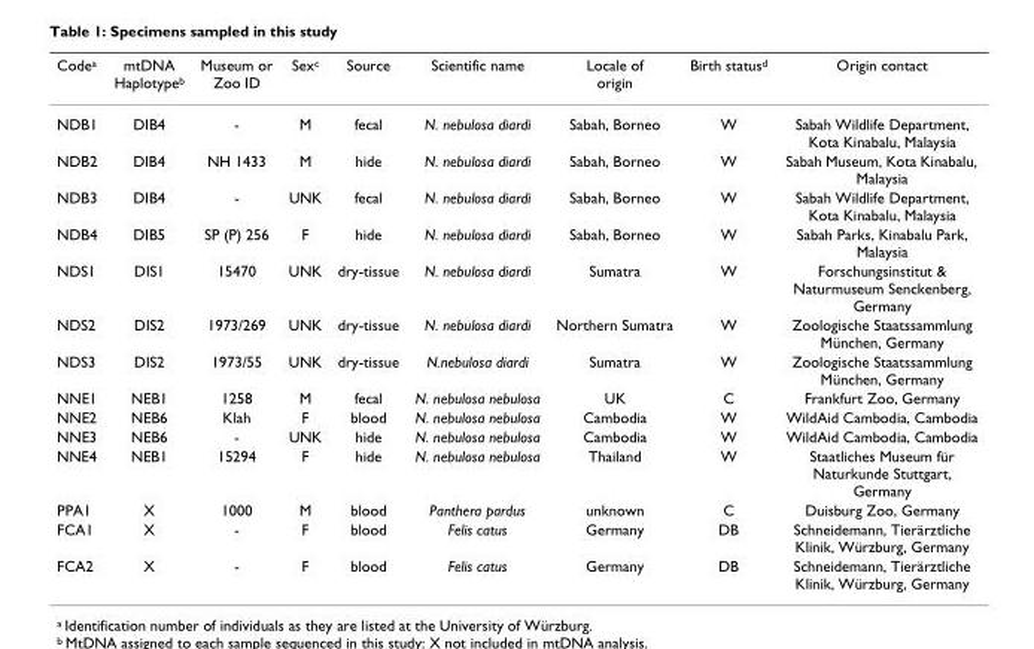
<table><thead><tr><td>Code<sup>a</sup></td><td>mtDNA Haplotype<sup>b</sup></td><td>Museum or Zoo ID</td><td>Sex<sup>c</sup></td><td>Source</td><td>Scientific name</td><td>Locale of origin</td><td>Birth status<sup>d</sup></td><td>Origin contact</td></tr></thead><tbody><tr><td>NDB1</td><td>DIB4</td><td>-</td><td>M</td><td>fecal</td><td>N. nebulosa diardi</td><td>Sabah, Borneo</td><td>W</td><td>Sabah Wildlife Department, Kota Kinabalu, Malaysia</td></tr><tr><td>NDB2</td><td>DIB4</td><td>NH 1433</td><td>M</td><td>hide</td><td>N. nebulosa diardi</td><td>Sabah, Borneo</td><td>W</td><td>Sabah Museum, Kota Kinabalu, Malaysia</td></tr><tr><td>NDB3</td><td>DIB4</td><td>-</td><td>UNK</td><td>fecal</td><td>N. nebulosa diardi</td><td>Sabah, Borneo</td><td>W</td><td>Sabah Wildlife Department, Kota Kinabalu, Malaysia</td></tr><tr><td>NDB4</td><td>DIB5</td><td>SP (P) 256</td><td>F</td><td>hide</td><td>N. nebulosa diardi</td><td>Sabah, Borneo</td><td>W</td><td>Sabah Parks, Kinabalu Park, Malaysia</td></tr><tr><td>NDS1</td><td>DIS1</td><td>15470</td><td>UNK</td><td>dry-tissue</td><td>N. nebulosa diardi</td><td>Sumatra</td><td>W</td><td>Forschungsinstitut &amp; Naturmuseum Senckenberg, Germany</td></tr><tr><td>NDS2</td><td>DIS2</td><td>1973/269</td><td>UNK</td><td>dry-tissue</td><td>N. nebulosa diardi</td><td>Northern Sumatra</td><td>W</td><td>Zoologische Staatssammlung München, Germany</td></tr><tr><td>NDS3</td><td>DIS2</td><td>1973/55</td><td>UNK</td><td>dry-tissue</td><td>N.nebulosa diardi</td><td>Sumatra</td><td>W</td><td>Zoologische Staatssammlung München, Germany</td></tr><tr><td>NNE1</td><td>NEB1</td><td>1258</td><td>M</td><td>fecal</td><td>N. nebulosa nebulosa</td><td>UK</td><td>C</td><td>Frankfurt Zoo, Germany</td></tr><tr><td>NNE2</td><td>NEB6</td><td>Klah</td><td>F</td><td>blood</td><td>N. nebulosa nebulosa</td><td>Cambodia</td><td>W</td><td>WildAid Cambodia, Cambodia</td></tr><tr><td>NNE3</td><td>NEB6</td><td>-</td><td>UNK</td><td>hide</td><td>N. nebulosa nebulosa</td><td>Cambodia</td><td>W</td><td>WildAid Cambodia, Cambodia</td></tr><tr><td>NNE4</td><td>NEB1</td><td>15294</td><td>F</td><td>hide</td><td>N. nebulosa nebulosa</td><td>Thailand</td><td>W</td><td>Staatliches Museum für Naturkunde Stuttgart, Germany</td></tr><tr><td>PPA1</td><td>X</td><td>1000</td><td>M</td><td>blood</td><td>Panthera pardus</td><td>unknown</td><td>C</td><td>Duisburg Zoo, Germany</td></tr><tr><td>FCA1</td><td>X</td><td>-</td><td>F</td><td>blood</td><td>Felis catus</td><td>Germany</td><td>DB</td><td>Schneidemann, Tierärztliche Klinik, Würzburg, Germany</td></tr><tr><td>FCA2</td><td>X</td><td>-</td><td>F</td><td>blood</td><td>Felis catus</td><td>Germany</td><td>DB</td><td>Schneidemann, Tierärztliche Klinik, Würzburg, Germany</td></tr></tbody></table>